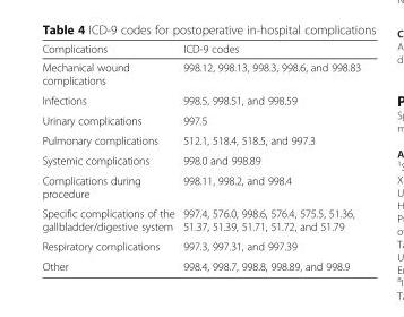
<table><thead><tr><td>Complications</td><td>ICD-9 codes</td></tr></thead><tbody><tr><td>Mechanical wound complications</td><td>998.12, 998.13, 998.3, 998.6, and 998.83</td></tr><tr><td>Infections</td><td>998.5, 998.51, and 998.59</td></tr><tr><td>Urinary complications</td><td>997.5</td></tr><tr><td>Pulmonary complications</td><td>512.1, 518.4, 518.5, and 997.3</td></tr><tr><td>Systemic complications</td><td>998.0 and 998.89</td></tr><tr><td>Complications during procedure</td><td>998.11, 998.2, and 998.4</td></tr><tr><td>Specific complications of the gallbladder/digestive system</td><td>997.4, 576.0, 998.6, 576.4, 575.5, 51.36, 51.37, 51.39, 51.71, 51.72, and 51.79</td></tr><tr><td>Respiratory complications</td><td>997.3, 997.31, and 997.39</td></tr><tr><td>Other</td><td>998.4, 998.7, 998.8, 998.89, and 998.9</td></tr></tbody></table>